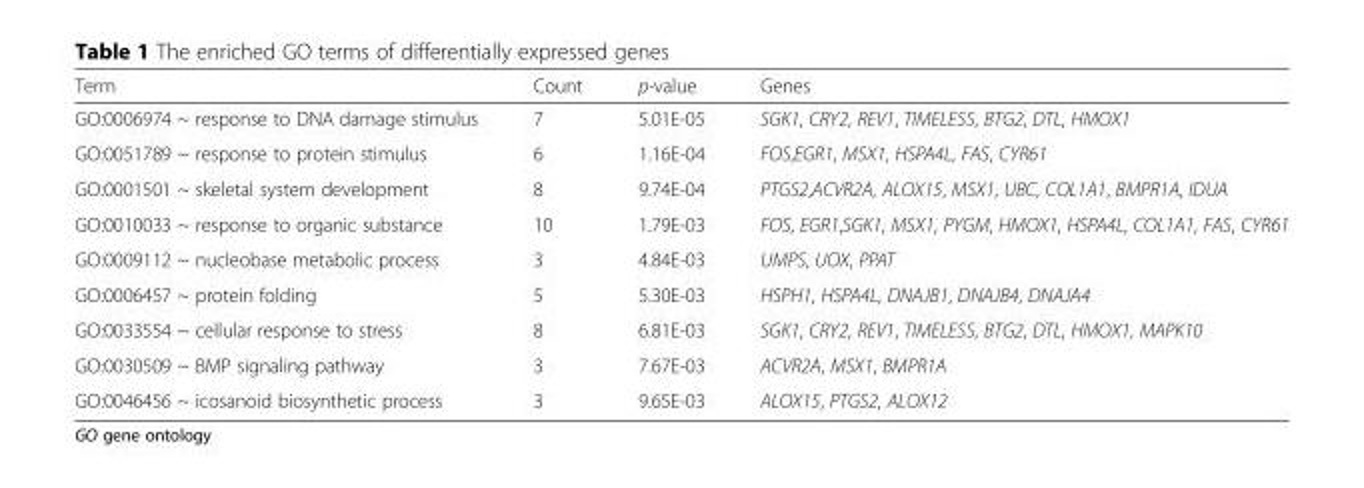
<table><thead><tr><td>Term</td><td>Count</td><td>p-value</td><td>Genes</td></tr></thead><tbody><tr><td>GO:0006974 ~ response to DNA damage stimulus</td><td>7</td><td>5.01E-05</td><td>SGK1, CRY2, REV1, TIMELESS, BTG2, DTL, HMOX1</td></tr><tr><td>GO:0051789 ~ response to protein stimulus</td><td>6</td><td>1.16E-04</td><td>FOS,EGR1, MSX1, HSPA4L, FAS, CYR61</td></tr><tr><td>GO:0001501 ~ skeletal system development</td><td>8</td><td>9.74E-04</td><td>PTGS2,ACVR2A, ALOX15, MSX1, UBC, COL1A1, BMPR1A, IDUA</td></tr><tr><td>GO:0010033 ~ response to organic substance</td><td>10</td><td>1.79E-03</td><td>FOS, EGR1,SGK1, MSX1, PYGM, HMOX1, HSPA4L, COL1A1, FAS, CYR61</td></tr><tr><td>GO:0009112 ~ nucleobase metabolic process</td><td>3</td><td>4.84E-03</td><td>UMPS, UOX, PPAT</td></tr><tr><td>GO:0006457 ~ protein folding</td><td>5</td><td>5.30E-03</td><td>HSPH1, HSPA4L, DNAJB1, DNAJB4, DNAJA4</td></tr><tr><td>GO:0033554 ~ cellular response to stress</td><td>8</td><td>6.81E-03</td><td>SGK1, CRY2, REV1, TIMELESS, BTG2, DTL, HMOX1, MAPK10</td></tr><tr><td>GO:0030509 ~ BMP signaling pathway</td><td>3</td><td>7.67E-03</td><td>ACVR2A, MSX1, BMPR1A</td></tr><tr><td>GO:0046456 ~ icosanoid biosynthetic process</td><td>3</td><td>9.65E-03</td><td>ALOX15, PTGS2, ALOX12</td></tr></tbody></table>